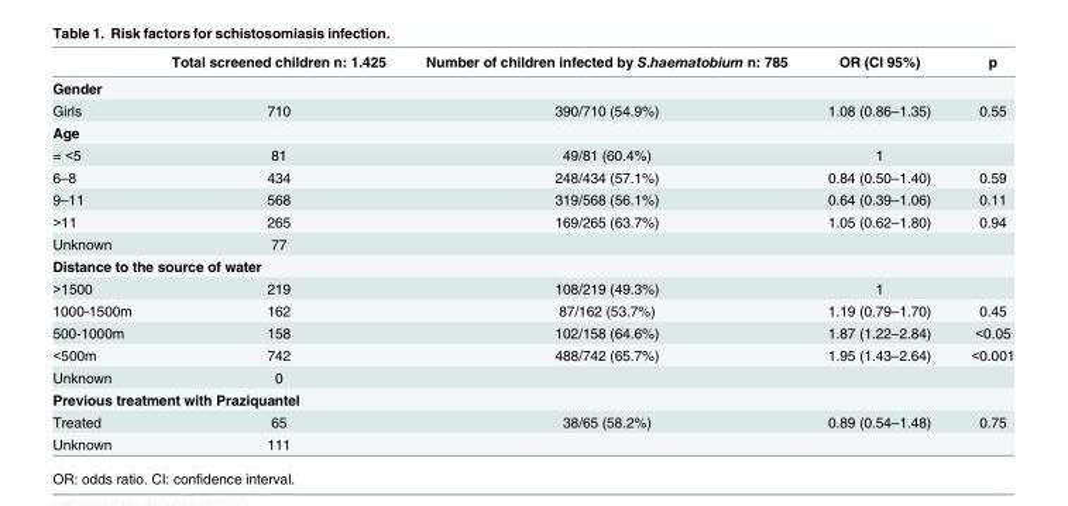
<table><thead><tr><td></td><td>Total screened children n: 1.425</td><td>Number of children infected by S.haematobium n: 785</td><td>OR (CI 95%)</td><td>p</td></tr></thead><tbody><tr><td colspan="5">Gender</td></tr><tr><td>Girls</td><td>710</td><td>390/710 (54.9%)</td><td>1.08 (0.86–1.35)</td><td>0.55</td></tr><tr><td colspan="5">Age</td></tr><tr><td>= &lt;5</td><td>81</td><td>49/81 (60.4%)</td><td>1</td><td></td></tr><tr><td>6–8</td><td>434</td><td>248/434 (57.1%)</td><td>0.84 (0.50–1.40)</td><td>0.59</td></tr><tr><td>9–11</td><td>568</td><td>319/568 (56.1%)</td><td>0.64 (0.39–1.06)</td><td>0.11</td></tr><tr><td>&gt;11</td><td>265</td><td>169/265 (63.7%)</td><td>1.05 (0.62–1.80)</td><td>0.94</td></tr><tr><td>Unknown</td><td>77</td><td></td><td></td><td></td></tr><tr><td colspan="5">Distance to the source of water</td></tr><tr><td>&gt;1500</td><td>219</td><td>108/219 (49.3%)</td><td>1</td><td></td></tr><tr><td>1000-1500m</td><td>162</td><td>87/162 (53.7%)</td><td>1.19 (0.79–1.70)</td><td>0.45</td></tr><tr><td>500-1000m</td><td>158</td><td>102/158 (64.6%)</td><td>1.87 (1.22–2.84)</td><td>&lt;0.05</td></tr><tr><td>&lt;500m</td><td>742</td><td>488/742 (65.7%)</td><td>1.95 (1.43–2.64)</td><td>&lt;0.001</td></tr><tr><td>Unknown</td><td>0</td><td></td><td></td><td></td></tr><tr><td colspan="5">Previous treatment with Praziquantel</td></tr><tr><td>Treated</td><td>65</td><td>38/65 (58.2%)</td><td>0.89 (0.54–1.48)</td><td>0.75</td></tr><tr><td>Unknown</td><td>111</td><td></td><td></td><td></td></tr></tbody></table>